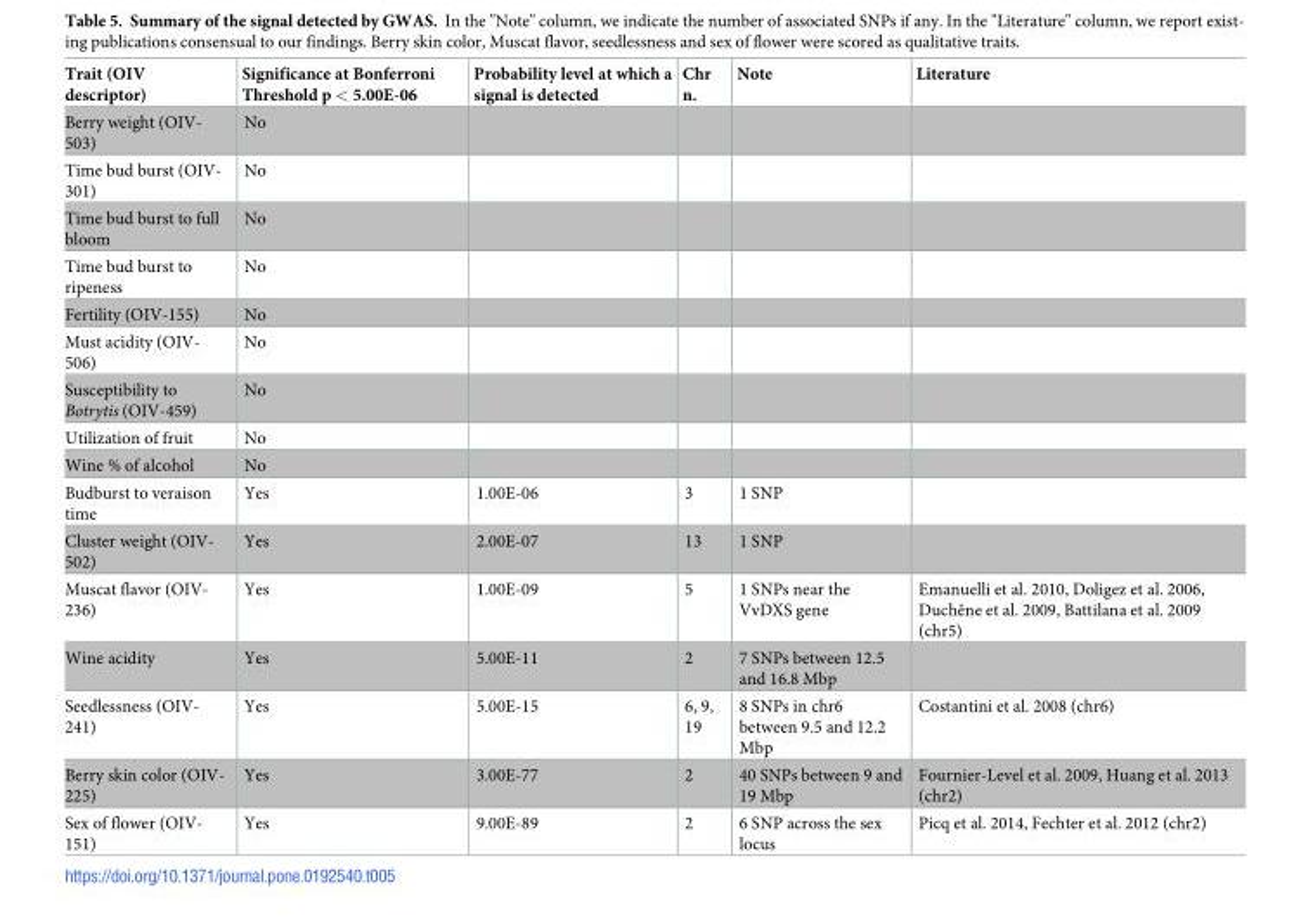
<table><thead><tr><td>Trait (OIV descriptor)</td><td>Significance at Bonferroni Threshold p &lt; 5.00E-06</td><td>Probability level at which a signal is detected</td><td>Chr n.</td><td>Note</td><td>Literature</td></tr></thead><tbody><tr><td>Berry weight (OIV- 503)</td><td>No</td><td></td><td></td><td></td><td></td></tr><tr><td>Time bud burst (OIV- 301)</td><td>No</td><td></td><td></td><td></td><td></td></tr><tr><td>Time bud burst to full bloom</td><td>No</td><td></td><td></td><td></td><td></td></tr><tr><td>Time bud burst to ripeness</td><td>No</td><td></td><td></td><td></td><td></td></tr><tr><td>Fertility (OIV-155)</td><td>No</td><td></td><td></td><td></td><td></td></tr><tr><td>Must acidity (OIV- 506)</td><td>No</td><td></td><td></td><td></td><td></td></tr><tr><td>Susceptibility to Botrytis (OIV-459)</td><td>No</td><td></td><td></td><td></td><td></td></tr><tr><td>Utilization of fruit</td><td>No</td><td></td><td></td><td></td><td></td></tr><tr><td>Wine % of alcohol</td><td>No</td><td></td><td></td><td></td><td></td></tr><tr><td>Budburst to veraison time</td><td>Yes</td><td>1.00E-06</td><td>3</td><td>1 SNP</td><td></td></tr><tr><td>Cluster weight (OIV- 502)</td><td>Yes</td><td>2.00E-07</td><td>13</td><td>1 SNP</td><td></td></tr><tr><td>Muscat flavor (OIV- 236)</td><td>Yes</td><td>1.00E-09</td><td>5</td><td>1 SNPs near the VvDXS gene</td><td>Emanuelli et al. 2010, Doligez et al. 2006, Duchêne et al. 2009, Battilana et al. 2009 (chr5)</td></tr><tr><td>Wine acidity</td><td>Yes</td><td>5.00E-11</td><td>2</td><td>7 SNPs between 12.5 and 16.8 Mbp</td><td></td></tr><tr><td>Seedlessness (OIV- 241)</td><td>Yes</td><td>5.00E-15</td><td>6, 9, 19</td><td>8 SNPs in chr6 between 9.5 and 12.2 Mbp</td><td>Costantini et al. 2008 (chr6)</td></tr><tr><td>Berry skin color (OIV- 225)</td><td>Yes</td><td>3.00E-77</td><td>2</td><td>40 SNPs between 9 and 19 Mbp</td><td>Fournier-Level et al. 2009, Huang et al. 2013 (chr2)</td></tr><tr><td>Sex of flower (OIV- 151)</td><td>Yes</td><td>9.00E-89</td><td>2</td><td>6 SNP across the sex locus</td><td>Picq et al. 2014, Fechter et al. 2012 (chr2)</td></tr></tbody></table>